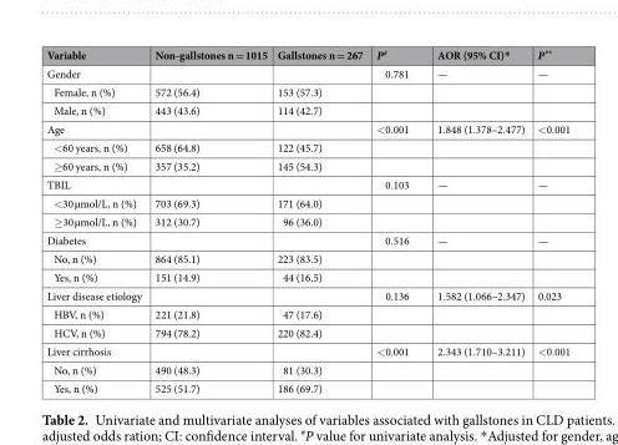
<table><thead><tr><td>Variable</td><td>Non-gallstones n = 1015</td><td>Gallstones n = 267</td><td>P<sup>#</sup></td><td>AOR (95% CI)*</td><td>P**</td></tr></thead><tbody><tr><td>Gender</td><td></td><td></td><td>0.781</td><td>—</td><td>—</td></tr><tr><td>Female, n (%)</td><td>572 (56.4)</td><td>153 (57.3)</td><td></td><td></td><td></td></tr><tr><td>Male, n (%)</td><td>443 (43.6)</td><td>114 (42.7)</td><td></td><td></td><td></td></tr><tr><td>Age</td><td></td><td></td><td>&lt;0.001</td><td>1.848 (1.378–2.477)</td><td>&lt;0.001</td></tr><tr><td>&lt;60 years, n (%)</td><td>658 (64.8)</td><td>122 (45.7)</td><td></td><td></td><td></td></tr><tr><td>≥60 years, n (%)</td><td>357 (35.2)</td><td>145 (54.3)</td><td></td><td></td><td></td></tr><tr><td>TBIL</td><td></td><td></td><td>0.103</td><td>—</td><td>—</td></tr><tr><td>&lt;30 µmol/L, n (%)</td><td>703 (69.3)</td><td>171 (64.0)</td><td></td><td></td><td></td></tr><tr><td>≥30 µmol/L, n (%)</td><td>312 (30.7)</td><td>96 (36.0)</td><td></td><td></td><td></td></tr><tr><td>Diabetes</td><td></td><td></td><td>0.516</td><td>—</td><td>—</td></tr><tr><td>No, n (%)</td><td>864 (85.1)</td><td>223 (83.5)</td><td></td><td></td><td></td></tr><tr><td>Yes, n (%)</td><td>151 (14.9)</td><td>44 (16.5)</td><td></td><td></td><td></td></tr><tr><td>Liver disease etiology</td><td></td><td></td><td>0.136</td><td>1.582 (1.066–2.347)</td><td>0.023</td></tr><tr><td>HBV, n (%)</td><td>221 (21.8)</td><td>47 (17.6)</td><td></td><td></td><td></td></tr><tr><td>HCV, n (%)</td><td>794 (78.2)</td><td>220 (82.4)</td><td></td><td></td><td></td></tr><tr><td>Liver cirrhosis</td><td></td><td></td><td>&lt;0.001</td><td>2.343 (1.710–3.211)</td><td>&lt;0.001</td></tr><tr><td>No, n (%)</td><td>490 (48.3)</td><td>81 (30.3)</td><td></td><td></td><td></td></tr><tr><td>Yes, n (%)</td><td>525 (51.7)</td><td>186 (69.7)</td><td></td><td></td><td></td></tr></tbody></table>